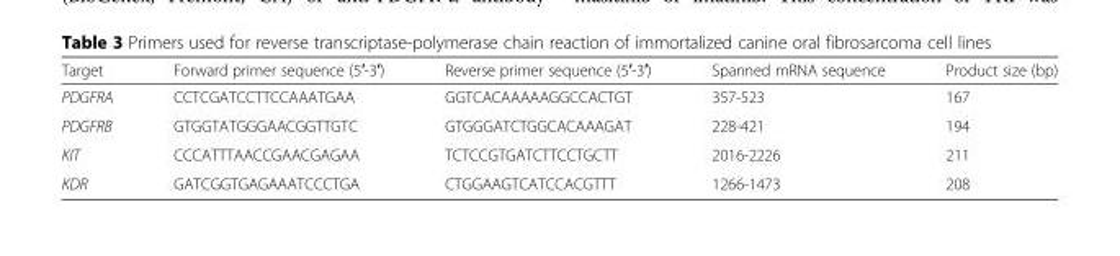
<table><thead><tr><td>Target</td><td>Forward primer sequence (5′-3′)</td><td>Reverse primer sequence (5′-3′)</td><td>Spanned mRNA sequence</td><td>Product size (bp)</td></tr></thead><tbody><tr><td>PDGFRA</td><td>CCTCGATCCTTCCAAATGAA</td><td>GGTCACAAAAAGGCCACTGT</td><td>357-523</td><td>167</td></tr><tr><td>PDGFRB</td><td>GTGGTATGGGAACGGTTGTC</td><td>GTGGGATCTGGCACAAAGAT</td><td>228-421</td><td>194</td></tr><tr><td>KIT</td><td>CCCATTTAACCGAACGAGAA</td><td>TCTCCGTGATCTTCCTGCTT</td><td>2016-2226</td><td>211</td></tr><tr><td>KDR</td><td>GATCGGTGAGAAATCCCTGA</td><td>CTGGAAGTCATCCACGTTT</td><td>1266-1473</td><td>208</td></tr></tbody></table>